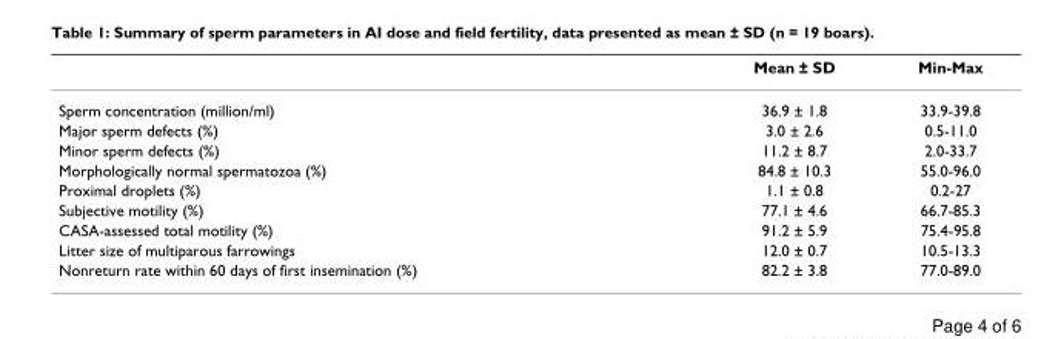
<table><thead><tr><td></td><td>Mean ± SD</td><td>Min-Max</td></tr></thead><tbody><tr><td>Sperm concentration (million/ml)</td><td>36.9 ± 1.8</td><td>33.9-39.8</td></tr><tr><td>Major sperm defects (%)</td><td>3.0 ± 2.6</td><td>0.5-11.0</td></tr><tr><td>Minor sperm defects (%)</td><td>11.2 ± 8.7</td><td>2.0-33.7</td></tr><tr><td>Morphologically normal spermatozoa (%)</td><td>84.8 ± 10.3</td><td>55.0-96.0</td></tr><tr><td>Proximal droplets (%)</td><td>1.1 ± 0.8</td><td>0.2-27</td></tr><tr><td>Subjective motility (%)</td><td>77.1 ± 4.6</td><td>66.7-85.3</td></tr><tr><td>CASA-assessed total motility (%)</td><td>91.2 ± 5.9</td><td>75.4-95.8</td></tr><tr><td>Litter size of multiparous farrowings</td><td>12.0 ± 0.7</td><td>10.5-13.3</td></tr><tr><td>Nonreturn rate within 60 days of first insemination (%)</td><td>82.2 ± 3.8</td><td>77.0-89.0</td></tr></tbody></table>